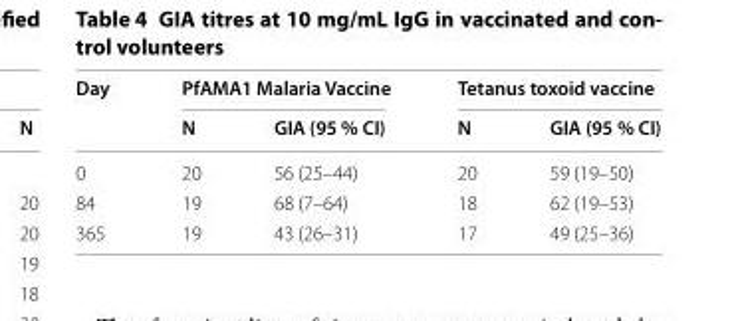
<table><thead><tr><td rowspan="2">Day</td><td colspan="2">PfAMA1 Malaria Vaccine</td><td colspan="2">Tetanus toxoid vaccine</td></tr><tr><td>N</td><td>GIA (95 % CI)</td><td>N</td><td>GIA (95 % CI)</td></tr></thead><tbody><tr><td>0</td><td>20</td><td>56 (25–44)</td><td>20</td><td>59 (19–50)</td></tr><tr><td>84</td><td>19</td><td>68 (7–64)</td><td>18</td><td>62 (19–53)</td></tr><tr><td>365</td><td>19</td><td>43 (26–31)</td><td>17</td><td>49 (25–36)</td></tr></tbody></table>